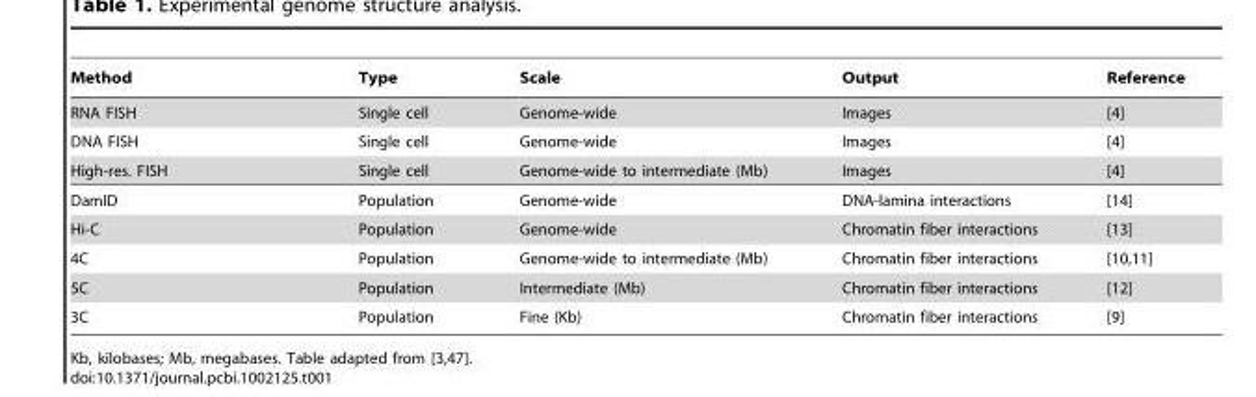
<table><thead><tr><td>Method</td><td>Type</td><td>Scale</td><td>Output</td><td>Reference</td></tr></thead><tbody><tr><td>RNA FISH</td><td>Single cell</td><td>Genome-wide</td><td>Images</td><td>[4]</td></tr><tr><td>DNA FISH</td><td>Single cell</td><td>Genome-wide</td><td>Images</td><td>[4]</td></tr><tr><td>High-res. FISH</td><td>Single cell</td><td>Genome-wide to intermediate (Mb)</td><td>Images</td><td>[4]</td></tr><tr><td>DamID</td><td>Population</td><td>Genome-wide</td><td>DNA-lamina interactions</td><td>[14]</td></tr><tr><td>Hi-C</td><td>Population</td><td>Genome-wide</td><td>Chromatin fiber interactions</td><td>[13]</td></tr><tr><td>4C</td><td>Population</td><td>Genome-wide to intermediate (Mb)</td><td>Chromatin fiber interactions</td><td>[10,11]</td></tr><tr><td>5C</td><td>Population</td><td>Intermediate (Mb)</td><td>Chromatin fiber interactions</td><td>[12]</td></tr><tr><td>3C</td><td>Population</td><td>Fine (Kb)</td><td>Chromatin fiber interactions</td><td>[9]</td></tr></tbody></table>